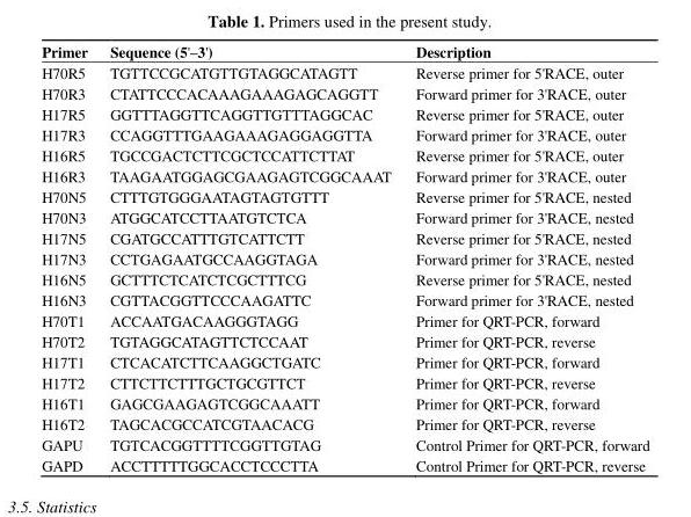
<table><thead><tr><td>Primer</td><td>Sequence (5&#x27;–3&#x27;)</td><td>Description</td></tr></thead><tbody><tr><td>H70R5</td><td>TGTTCCGCATGTTGTAGGCATAGTT</td><td>Reverse primer for 5&#x27;RACE, outer</td></tr><tr><td>H70R3</td><td>CTATTCCCACAAAGAAAGAGCAGGTT</td><td>Forward primer for 3&#x27;RACE, outer</td></tr><tr><td>H17R5</td><td>GGTTTAGGTTCAGGTTGTTTAGGCAC</td><td>Reverse primer for 5&#x27;RACE, outer</td></tr><tr><td>H17R3</td><td>CCAGGTTTGAAGAAAGAGGAGGTTA</td><td>Forward primer for 3&#x27;RACE, outer</td></tr><tr><td>H16R5</td><td>TGCCGACTCTTCGCTCCATTCTTAT</td><td>Reverse primer for 5&#x27;RACE, outer</td></tr><tr><td>H16R3</td><td>TAAGAATGGAGCGAAGAGTCGGCAAAT</td><td>Forward primer for 3&#x27;RACE, outer</td></tr><tr><td>H70N5</td><td>CTTTGTGGGAATAGTAGTGTTT</td><td>Reverse primer for 5&#x27;RACE, nested</td></tr><tr><td>H70N3</td><td>ATGGCATCCTTAATGTCTCA</td><td>Forward primer for 3&#x27;RACE, nested</td></tr><tr><td>H17N5</td><td>CGATGCCATTTGTCATTCTT</td><td>Reverse primer for 5&#x27;RACE, nested</td></tr><tr><td>H17N3</td><td>CCTGAGAATGCCAAGGTAGA</td><td>Forward primer for 3&#x27;RACE, nested</td></tr><tr><td>H16N5</td><td>GCTTTCTCATCTCGCTTTCG</td><td>Reverse primer for 5&#x27;RACE, nested</td></tr><tr><td>H16N3</td><td>CGTTACGGTTCCCAAGATTC</td><td>Forward primer for 3&#x27;RACE, nested</td></tr><tr><td>H70T1</td><td>ACCAATGACAAGGGTAGG</td><td>Primer for QRT-PCR, forward</td></tr><tr><td>H70T2</td><td>TGTAGGCATAGTTCTCCAAT</td><td>Primer for QRT-PCR, reverse</td></tr><tr><td>H17T1</td><td>CTCACATCTTCAAGGCTGATC</td><td>Primer for QRT-PCR, forward</td></tr><tr><td>H17T2</td><td>CTTCTTCTTTGCTGCGTTCT</td><td>Primer for QRT-PCR, reverse</td></tr><tr><td>H16T1</td><td>GAGCGAAGAGTCGGCAAATT</td><td>Primer for QRT-PCR, forward</td></tr><tr><td>H16T2</td><td>TAGCACGCCATCGTAACACG</td><td>Primer for QRT-PCR, reverse</td></tr><tr><td>GAPU</td><td>TGTCACGGTTTTCGGTTGTAG</td><td>Control Primer for QRT-PCR, forward</td></tr><tr><td>GAPD</td><td>ACCTTTTTGGCACCTCCCTTA</td><td>Control Primer for QRT-PCR, reverse</td></tr></tbody></table>